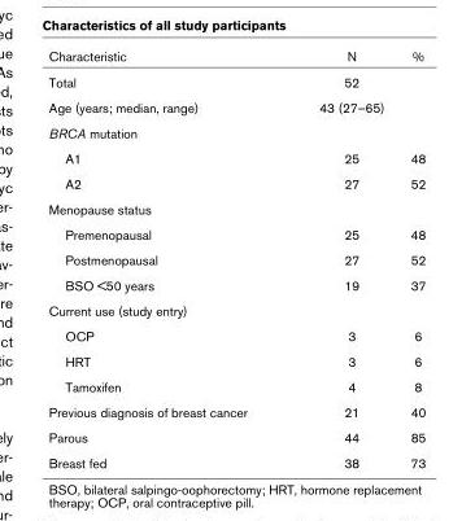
<table><thead><tr><td>Characteristic</td><td>N</td><td>%</td></tr></thead><tbody><tr><td>Total</td><td>52</td><td></td></tr><tr><td>Age (years; median, range)</td><td>43 (27–65)</td><td></td></tr><tr><td colspan="3">BRCA mutation</td></tr><tr><td>A1</td><td>25</td><td>48</td></tr><tr><td>A2</td><td>27</td><td>52</td></tr><tr><td colspan="3">Menopause status</td></tr><tr><td>Premenopausal</td><td>25</td><td>48</td></tr><tr><td>Postmenopausal</td><td>27</td><td>52</td></tr><tr><td>BSO &lt;50 years</td><td>19</td><td>37</td></tr><tr><td colspan="3">Current use (study entry)</td></tr><tr><td>OCP</td><td>3</td><td>6</td></tr><tr><td>HRT</td><td>3</td><td>6</td></tr><tr><td>Tamoxifen</td><td>4</td><td>8</td></tr><tr><td>Previous diagnosis of breast cancer</td><td>21</td><td>40</td></tr><tr><td>Parous</td><td>44</td><td>85</td></tr><tr><td>Breast fed</td><td>38</td><td>73</td></tr></tbody></table>